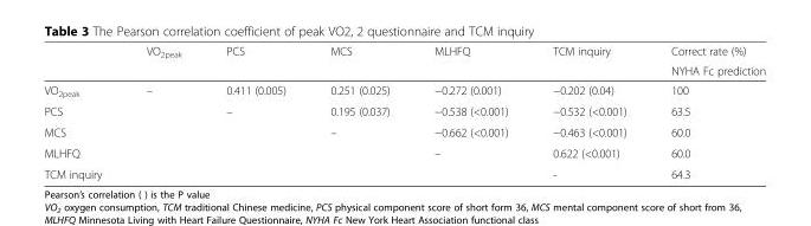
<table><thead><tr><td rowspan="2"></td><td rowspan="2">VO<sub>2peak</sub></td><td rowspan="2">PCS</td><td rowspan="2">MCS</td><td rowspan="2">MLHFQ</td><td rowspan="2">TCM inquiry</td><td rowspan="2">Correct rate (%) NYHA Fc prediction</td></tr><tr></tr></thead><tbody><tr><td>VO<sub>2peak</sub></td><td>–</td><td>0.411 (0.005)</td><td>0.251 (0.025)</td><td>−0.272 (0.001)</td><td>−0.202 (0.04)</td><td>100</td></tr><tr><td>PCS</td><td></td><td>–</td><td>0.195 (0.037)</td><td>−0.538 (&lt;0.001)</td><td>−0.532 (&lt;0.001)</td><td>63.5</td></tr><tr><td>MCS</td><td></td><td></td><td>–</td><td>−0.662 (&lt;0.001)</td><td>−0.463 (&lt;0.001)</td><td>60.0</td></tr><tr><td>MLHFQ</td><td></td><td></td><td></td><td>–</td><td>0.622 (&lt;0.001)</td><td>60.0</td></tr><tr><td>TCM inquiry</td><td></td><td></td><td></td><td></td><td>-</td><td>64.3</td></tr></tbody></table>